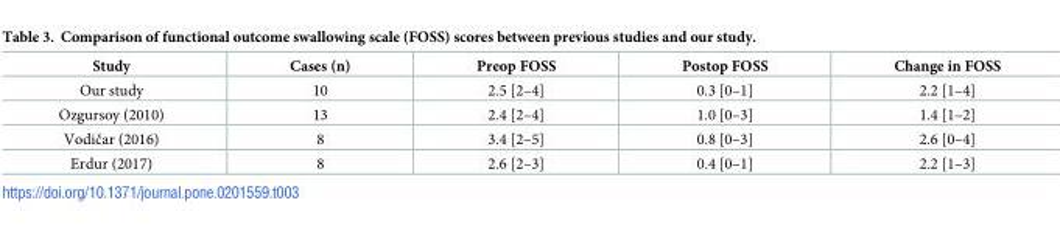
<table><thead><tr><td>Study</td><td>Cases (n)</td><td>Preop FOSS</td><td>Postop FOSS</td><td>Change in FOSS</td></tr></thead><tbody><tr><td>Our study</td><td>10</td><td>2.5 [2–4]</td><td>0.3 [0–1]</td><td>2.2 [1–4]</td></tr><tr><td>Ozgursoy (2010)</td><td>13</td><td>2.4 [2–4]</td><td>1.0 [0–3]</td><td>1.4 [1–2]</td></tr><tr><td>Vodičar (2016)</td><td>8</td><td>3.4 [2–5]</td><td>0.8 [0–3]</td><td>2.6 [0–4]</td></tr><tr><td>Erdur (2017)</td><td>8</td><td>2.6 [2–3]</td><td>0.4 [0–1]</td><td>2.2 [1–3]</td></tr></tbody></table>